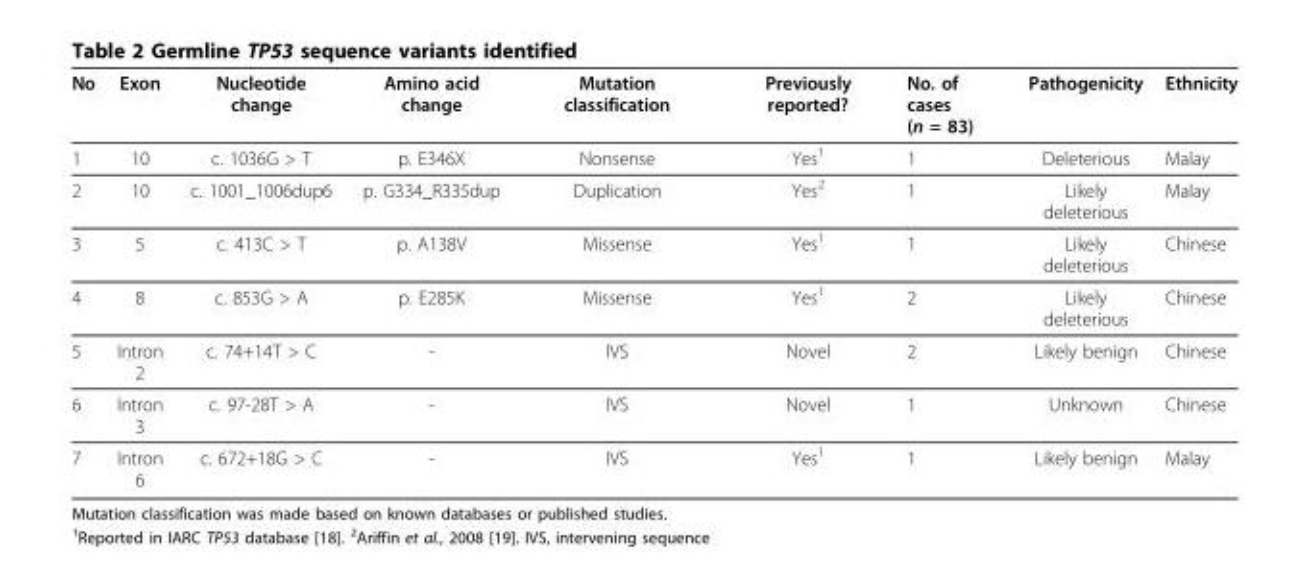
<table><thead><tr><td>No</td><td>Exon</td><td>Nucleotide change</td><td>Amino acid change</td><td>Mutation classification</td><td>Previously reported?</td><td>No. of cases (n = 83)</td><td>Pathogenicity</td><td>Ethnicity</td></tr></thead><tbody><tr><td>1</td><td>10</td><td>c. 1036G &gt; T</td><td>p. E346X</td><td>Nonsense</td><td>Yes<sup>1</sup></td><td>1</td><td>Deleterious</td><td>Malay</td></tr><tr><td>2</td><td>10</td><td>c. 1001_1006dup6</td><td>p. G334_R335dup</td><td>Duplication</td><td>Yes<sup>2</sup></td><td>1</td><td>Likely deleterious</td><td>Malay</td></tr><tr><td>3</td><td>5</td><td>c. 413C &gt; T</td><td>p. A138V</td><td>Missense</td><td>Yes<sup>1</sup></td><td>1</td><td>Likely deleterious</td><td>Chinese</td></tr><tr><td>4</td><td>8</td><td>c. 853G &gt; A</td><td>p. E285K</td><td>Missense</td><td>Yes<sup>1</sup></td><td>2</td><td>Likely deleterious</td><td>Chinese</td></tr><tr><td>5</td><td>Intron 2</td><td>c. 74+14T &gt; C</td><td>-</td><td>IVS</td><td>Novel</td><td>2</td><td>Likely benign</td><td>Chinese</td></tr><tr><td>6</td><td>Intron 3</td><td>c. 97-28T &gt; A</td><td>-</td><td>IVS</td><td>Novel</td><td>1</td><td>Unknown</td><td>Chinese</td></tr><tr><td>7</td><td>Intron 6</td><td>c. 672+18G &gt; C</td><td>-</td><td>IVS</td><td>Yes<sup>1</sup></td><td>1</td><td>Likely benign</td><td>Malay</td></tr></tbody></table>